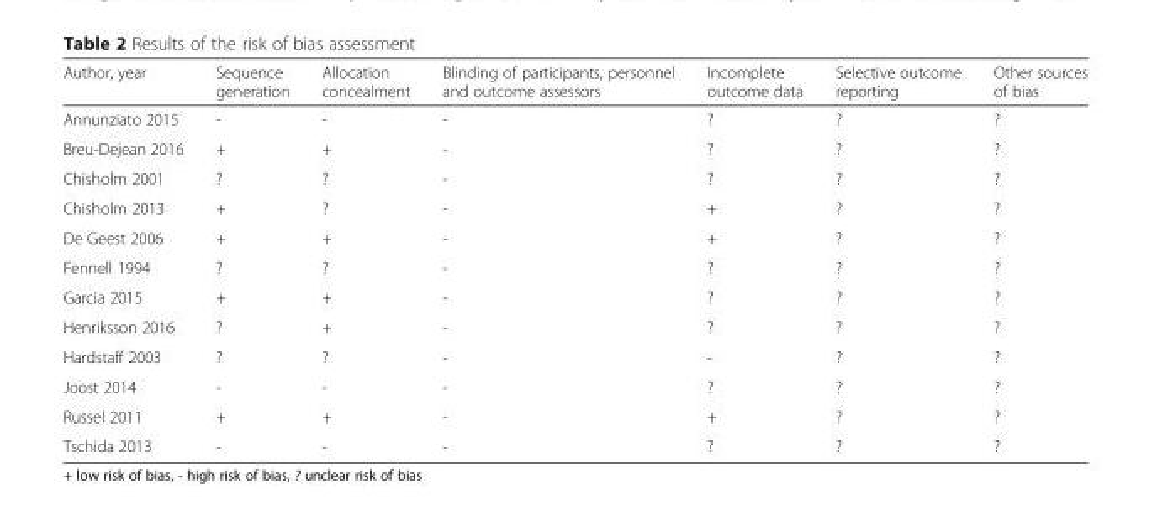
<table><thead><tr><td>Author, year</td><td>Sequence generation</td><td>Allocation concealment</td><td>Blinding of participants, personnel and outcome assessors</td><td>Incomplete outcome data</td><td>Selective outcome reporting</td><td>Other sources of bias</td></tr></thead><tbody><tr><td>Annunziato 2015</td><td>-</td><td>-</td><td>-</td><td>?</td><td>?</td><td>?</td></tr><tr><td>Breu-Dejean 2016</td><td>+</td><td>+</td><td>-</td><td>?</td><td>?</td><td>?</td></tr><tr><td>Chisholm 2001</td><td>?</td><td>?</td><td>-</td><td>?</td><td>?</td><td>?</td></tr><tr><td>Chisholm 2013</td><td>+</td><td>?</td><td>-</td><td>+</td><td>?</td><td>?</td></tr><tr><td>De Geest 2006</td><td>+</td><td>+</td><td>-</td><td>+</td><td>?</td><td>?</td></tr><tr><td>Fennell 1994</td><td>?</td><td>?</td><td>-</td><td>?</td><td>?</td><td>?</td></tr><tr><td>Garcia 2015</td><td>+</td><td>+</td><td>-</td><td>?</td><td>?</td><td>?</td></tr><tr><td>Henriksson 2016</td><td>?</td><td>+</td><td>-</td><td>?</td><td>?</td><td>?</td></tr><tr><td>Hardstaff 2003</td><td>?</td><td>?</td><td>-</td><td>-</td><td>?</td><td>?</td></tr><tr><td>Joost 2014</td><td>-</td><td>-</td><td>-</td><td>?</td><td>?</td><td>?</td></tr><tr><td>Russel 2011</td><td>+</td><td>+</td><td>-</td><td>+</td><td>?</td><td>?</td></tr><tr><td>Tschida 2013</td><td>-</td><td>-</td><td>-</td><td>?</td><td>?</td><td>?</td></tr></tbody></table>